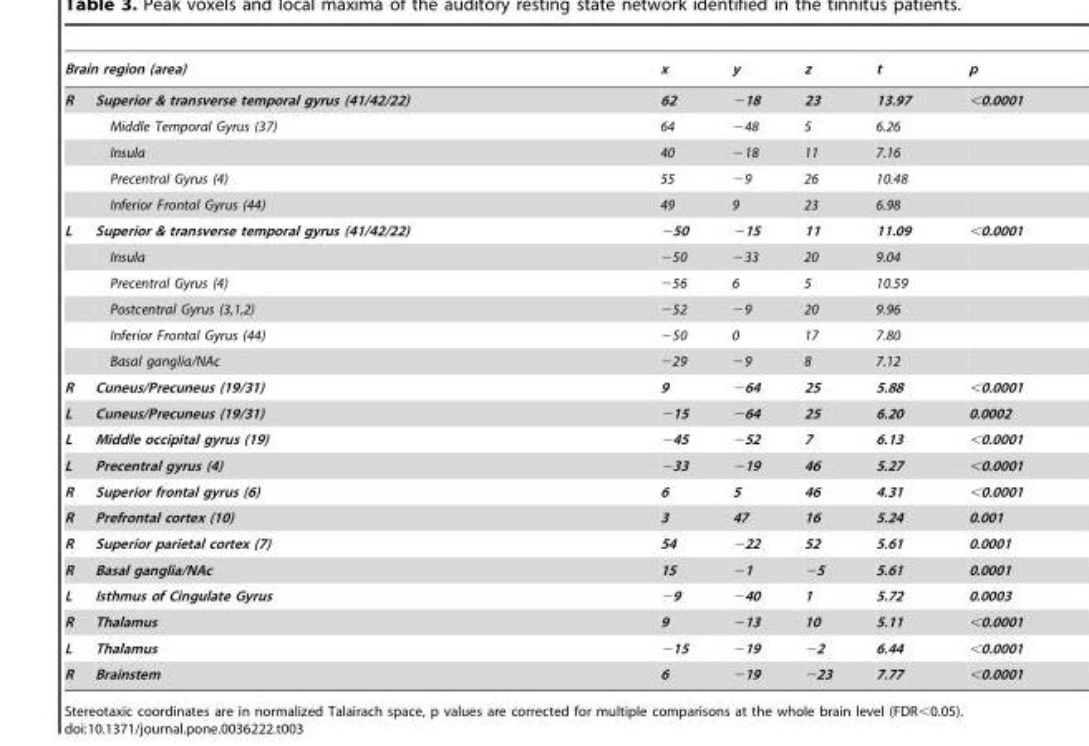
<table><thead><tr><td colspan="2">Brain region (area)</td><td rowspan="2">x 62</td><td rowspan="2">y −18</td><td rowspan="2">z 23</td><td rowspan="2">t 13.97</td><td rowspan="2">p &lt;0.0001</td></tr><tr><td>R</td><td>Superior &amp; transverse temporal gyrus (41/42/22)</td></tr></thead><tbody><tr><td></td><td>Middle Temporal Gyrus (37)</td><td>64</td><td>−48</td><td>5</td><td>6.26</td><td></td></tr><tr><td></td><td>Insula</td><td>40</td><td>−18</td><td>11</td><td>7.16</td><td></td></tr><tr><td></td><td>Precentral Gyrus (4)</td><td>55</td><td>−9</td><td>26</td><td>10.48</td><td></td></tr><tr><td></td><td>Inferior Frontal Gyrus (44)</td><td>49</td><td>9</td><td>23</td><td>6.98</td><td></td></tr><tr><td rowspan="6">L</td><td>Superior &amp; transverse temporal gyrus (41/42/22)</td><td>−50</td><td>−15</td><td>11</td><td>11.09</td><td>&lt;0.0001</td></tr><tr><td>Insula</td><td>−50</td><td>−33</td><td>20</td><td>9.04</td><td></td></tr><tr><td>Precentral Gyrus (4)</td><td>−56</td><td>6</td><td>5</td><td>10.59</td><td></td></tr><tr><td>Postcentral Gyrus (3,1,2)</td><td>−52</td><td>−9</td><td>20</td><td>9.96</td><td></td></tr><tr><td>Inferior Frontal Gyrus (44)</td><td>−50</td><td>0</td><td>17</td><td>7.80</td><td></td></tr><tr><td>Basal ganglia/NAc</td><td>−29</td><td>−9</td><td>8</td><td>7.12</td><td></td></tr><tr><td>R</td><td>Cuneus/Precuneus (19/31)</td><td>9</td><td>−64</td><td>25</td><td>5.88</td><td>&lt;0.0001</td></tr><tr><td>L</td><td>Cuneus/Precuneus (19/31)</td><td>−15</td><td>−64</td><td>25</td><td>6.20</td><td>0.0002</td></tr><tr><td>L</td><td>Middle occipital gyrus (19)</td><td>−45</td><td>−52</td><td>7</td><td>6.13</td><td>&lt;0.0001</td></tr><tr><td>L</td><td>Precentral gyrus (4)</td><td>−33</td><td>−19</td><td>46</td><td>5.27</td><td>&lt;0.0001</td></tr><tr><td>R</td><td>Superior frontal gyrus (6)</td><td>6</td><td>5</td><td>46</td><td>4.31</td><td>&lt;0.0001</td></tr><tr><td>R</td><td>Prefrontal cortex (10)</td><td>3</td><td>47</td><td>16</td><td>5.24</td><td>0.001</td></tr><tr><td>R</td><td>Superior parietal cortex (7)</td><td>54</td><td>−22</td><td>52</td><td>5.61</td><td>0.0001</td></tr><tr><td>R</td><td>Basal ganglia/NAc</td><td>15</td><td>−1</td><td>−5</td><td>5.61</td><td>0.0001</td></tr><tr><td>L</td><td>Isthmus of Cingulate Gyrus</td><td>−9</td><td>−40</td><td>1</td><td>5.72</td><td>0.0003</td></tr><tr><td>R</td><td>Thalamus</td><td>9</td><td>−13</td><td>10</td><td>5.11</td><td>&lt;0.0001</td></tr><tr><td>L</td><td>Thalamus</td><td>−15</td><td>−19</td><td>−2</td><td>6.44</td><td>&lt;0.0001</td></tr><tr><td>R</td><td>Brainstem</td><td>6</td><td>−19</td><td>−23</td><td>7.77</td><td>&lt;0.0001</td></tr></tbody></table>